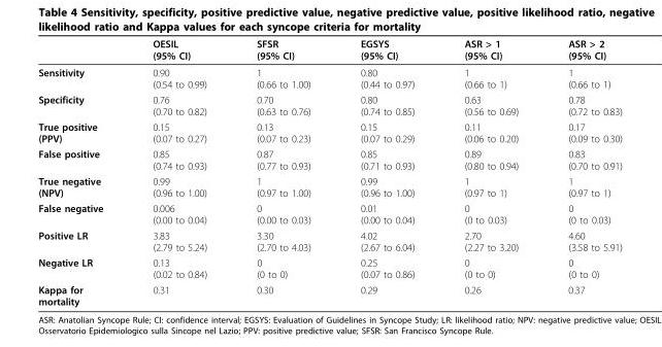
<table><thead><tr><td></td><td>OESIL (95% CI)</td><td>SFSR (95% CI)</td><td>EGSYS (95% CI)</td><td>ASR &gt; 1 (95% CI)</td><td>ASR &gt; 2 (95% CI)</td></tr></thead><tbody><tr><td>Sensitivity</td><td>0.90 (0.54 to 0.99)</td><td>1 (0.66 to 1.00)</td><td>0.80 (0.44 to 0.97)</td><td>1 (0.66 to 1)</td><td>1 (0.66 to 1)</td></tr><tr><td>Specificity</td><td>0.76 (0.70 to 0.82)</td><td>0.70 (0.63 to 0.76)</td><td>0.80 (0.74 to 0.85)</td><td>0.63 (0.56 to 0.69)</td><td>0.78 (0.72 to 0.83)</td></tr><tr><td>True positive (PPV)</td><td>0.15 (0.07 to 0.27)</td><td>0.13 (0.07 to 0.23)</td><td>0.15 (0.07 to 0.29)</td><td>0.11 (0.06 to 0.20)</td><td>0.17 (0.09 to 0.30)</td></tr><tr><td>False positive</td><td>0.85 (0.74 to 0.93)</td><td>0.87 (0.77 to 0.93)</td><td>0.85 (0.71 to 0.93)</td><td>0.89 (0.80 to 0.94)</td><td>0.83 (0.70 to 0.91)</td></tr><tr><td>True negative (NPV)</td><td>0.99 (0.96 to 1.00)</td><td>1 (0.97 to 1.00)</td><td>0.99 (0.96 to 1.00)</td><td>1 (0.97 to 1)</td><td>1 (0.97 to 1)</td></tr><tr><td>False negative</td><td>0.006 (0.00 to 0.04)</td><td>0 (0.00 to 0.03)</td><td>0.01 (0.00 to 0.04)</td><td>0 (0 to 0.03)</td><td>0 (0 to 0.03)</td></tr><tr><td>Positive LR</td><td>3.83 (2.79 to 5.24)</td><td>3.30 (2.70 to 4.03)</td><td>4.02 (2.67 to 6.04)</td><td>2.70 (2.27 to 3.20)</td><td>4.60 (3.58 to 5.91)</td></tr><tr><td>Negative LR</td><td>0.13 (0.02 to 0.84)</td><td>0 (0 to 0)</td><td>0.25 (0.07 to 0.86)</td><td>0 (0 to 0)</td><td>0 (0 to 0)</td></tr><tr><td>Kappa for mortality</td><td>0.31</td><td>0.30</td><td>0.29</td><td>0.26</td><td>0.37</td></tr></tbody></table>